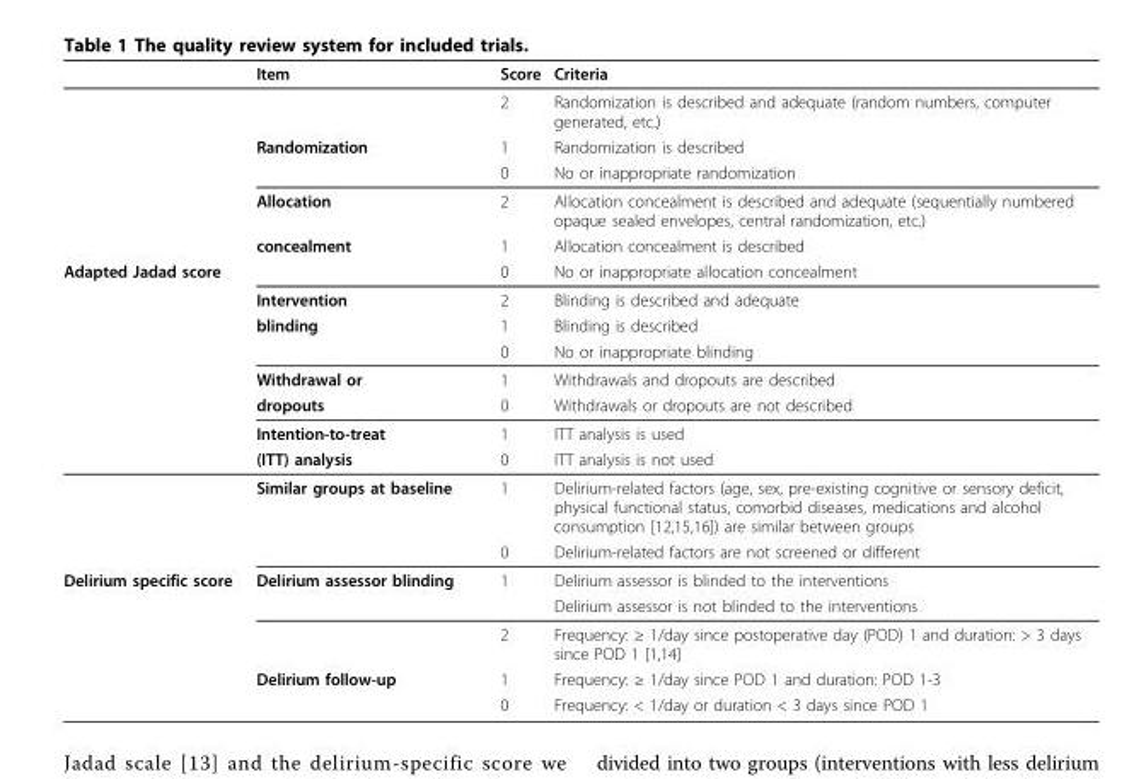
<table><thead><tr><td></td><td>Item</td><td>Score</td><td>Criteria</td></tr></thead><tbody><tr><td></td><td></td><td>2</td><td>Randomization is described and adequate (random numbers, computer generated, etc.)</td></tr><tr><td></td><td>Randomization</td><td>1</td><td>Randomization is described</td></tr><tr><td></td><td></td><td>0</td><td>No or inappropriate randomization</td></tr><tr><td></td><td>Allocation</td><td>2</td><td>Allocation concealment is described and adequate (sequentially numbered opaque sealed envelopes, central randomization, etc.)</td></tr><tr><td></td><td>concealment</td><td>1</td><td>Allocation concealment is described</td></tr><tr><td rowspan="10">Adapted Jadad score</td><td></td><td>0</td><td>No or inappropriate allocation concealment</td></tr><tr><td>Intervention</td><td>2</td><td>Blinding is described and adequate</td></tr><tr><td>blinding</td><td>1</td><td>Blinding is described</td></tr><tr><td></td><td>0</td><td>No or inappropriate blinding</td></tr><tr><td>Withdrawal or</td><td>1</td><td>Withdrawals and dropouts are described</td></tr><tr><td>dropouts</td><td>0</td><td>Withdrawals or dropouts are not described</td></tr><tr><td>Intention-to-treat</td><td>1</td><td>ITT analysis is used</td></tr><tr><td>(ITT) analysis</td><td>0</td><td>ITT analysis is not used</td></tr><tr><td>Similar groups at baseline</td><td>1</td><td>Delirium-related factors (age, sex, pre-existing cognitive or sensory deficit, physical functional status, comorbid diseases, medications and alcohol consumption [12,15,16]) are similar between groups</td></tr><tr><td></td><td>0</td><td>Delirium-related factors are not screened or different</td></tr><tr><td rowspan="5">Delirium specific score</td><td>Delirium assessor blinding</td><td>1</td><td>Delirium assessor is blinded to the interventions</td></tr><tr><td></td><td></td><td>Delirium assessor is not blinded to the interventions</td></tr><tr><td></td><td>2</td><td>Frequency: ≥ 1/day since postoperative day (POD) 1 and duration: &gt; 3 days since POD 1 [1,14]</td></tr><tr><td>Delirium follow-up</td><td>1</td><td>Frequency: ≥ 1/day since POD 1 and duration: POD 1-3</td></tr><tr><td></td><td>0</td><td>Frequency: &lt; 1/day or duration &lt; 3 days since POD 1</td></tr></tbody></table>